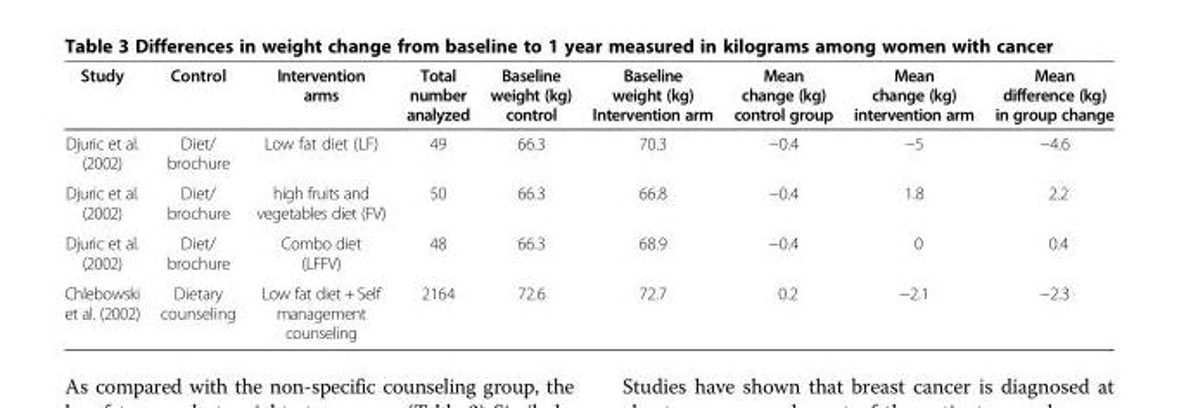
<table><thead><tr><td>Study</td><td>Control</td><td>Intervention arms</td><td>Total number analyzed</td><td>Baseline weight (kg) control</td><td>Baseline weight (kg) Intervention arm</td><td>Mean change (kg) control group</td><td>Mean change (kg) intervention arm</td><td>Mean difference (kg) in group change</td></tr></thead><tbody><tr><td>Djuric et al. (2002)</td><td>Diet/ brochure</td><td>Low fat diet (LF)</td><td>49</td><td>66.3</td><td>70.3</td><td>−0.4</td><td>−5</td><td>−4.6</td></tr><tr><td>Djuric et al. (2002)</td><td>Diet/ brochure</td><td>high fruits and vegetables diet (FV)</td><td>50</td><td>66.3</td><td>66.8</td><td>−0.4</td><td>1.8</td><td>2.2</td></tr><tr><td>Djuric et al. (2002)</td><td>Diet/ brochure</td><td>Combo diet (LFFV)</td><td>48</td><td>66.3</td><td>68.9</td><td>−0.4</td><td>0</td><td>0.4</td></tr><tr><td>Chlebowski et al. (2002)</td><td>Dietary counseling</td><td>Low fat diet + Self management counseling</td><td>2164</td><td>72.6</td><td>72.7</td><td>0.2</td><td>−2.1</td><td>−2.3</td></tr></tbody></table>